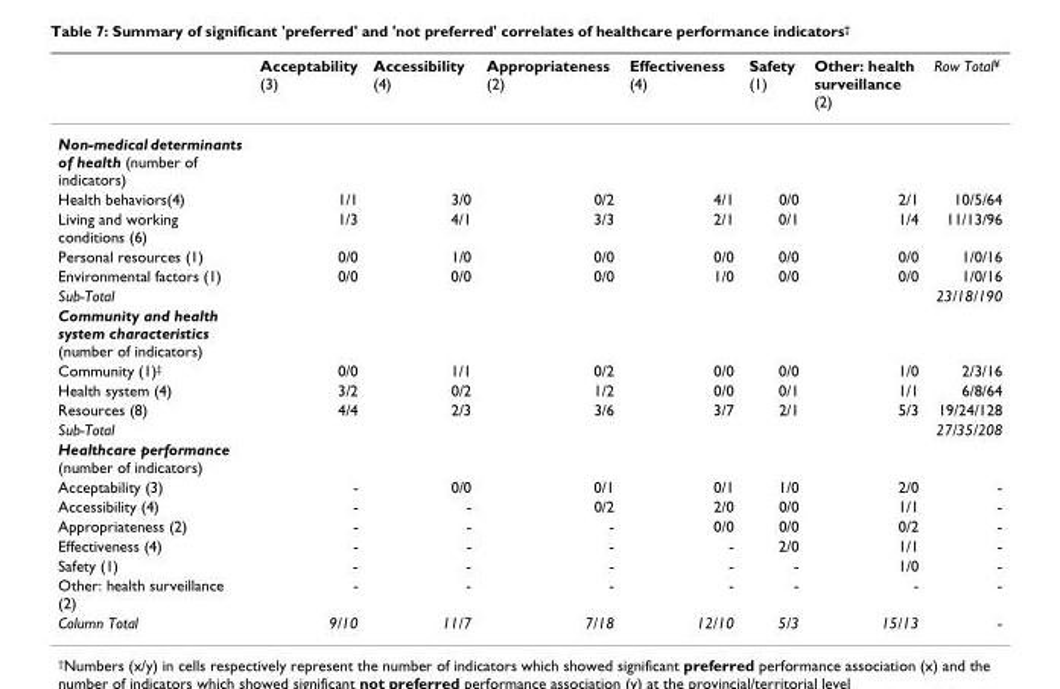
<table><thead><tr><td></td><td>Acceptability (3)</td><td>Accessibility (4)</td><td>Appropriateness (2)</td><td>Effectiveness (4)</td><td>Safety (1)</td><td>Other: health surveillance (2)</td><td>Row Total<sup>¥</sup></td></tr></thead><tbody><tr><td colspan="8">Non-medical determinants of health (number of indicators)</td></tr><tr><td>Health behaviors(4)</td><td>1/1</td><td>3/0</td><td>0/2</td><td>4/1</td><td>0/0</td><td>2/1</td><td>10/5/64</td></tr><tr><td>Living and working conditions (6)</td><td>1/3</td><td>4/1</td><td>3/3</td><td>2/1</td><td>0/1</td><td>1/4</td><td>11/13/96</td></tr><tr><td>Personal resources (1)</td><td>0/0</td><td>1/0</td><td>0/0</td><td>0/0</td><td>0/0</td><td>0/0</td><td>1/0/16</td></tr><tr><td>Environmental factors (1)</td><td>0/0</td><td>0/0</td><td>0/0</td><td>1/0</td><td>0/0</td><td>0/0</td><td>1/0/16</td></tr><tr><td>Sub-Total</td><td></td><td></td><td></td><td></td><td></td><td></td><td>23/18/190</td></tr><tr><td colspan="8">Community and health system characteristics (number of indicators)</td></tr><tr><td>Community (1)<sup>‡</sup></td><td>0/0</td><td>1/1</td><td>0/2</td><td>0/0</td><td>0/0</td><td>1/0</td><td>2/3/16</td></tr><tr><td>Health system (4)</td><td>3/2</td><td>0/2</td><td>1/2</td><td>0/0</td><td>0/1</td><td>1/1</td><td>6/8/64</td></tr><tr><td>Resources (8)</td><td>4/4</td><td>2/3</td><td>3/6</td><td>3/7</td><td>2/1</td><td>5/3</td><td>19/24/128</td></tr><tr><td>Sub-Total</td><td></td><td></td><td></td><td></td><td></td><td></td><td>27/35/208</td></tr><tr><td colspan="8">Healthcare performance (number of indicators)</td></tr><tr><td>Acceptability (3)</td><td>-</td><td>0/0</td><td>0/1</td><td>0/1</td><td>1/0</td><td>2/0</td><td>-</td></tr><tr><td>Accessibility (4)</td><td>-</td><td>-</td><td>0/2</td><td>2/0</td><td>0/0</td><td>1/1</td><td>-</td></tr><tr><td>Appropriateness (2)</td><td>-</td><td>-</td><td>-</td><td>0/0</td><td>0/0</td><td>0/2</td><td>-</td></tr><tr><td>Effectiveness (4)</td><td>-</td><td>-</td><td>-</td><td>-</td><td>2/0</td><td>1/1</td><td>-</td></tr><tr><td>Safety (1)</td><td>-</td><td>-</td><td>-</td><td>-</td><td>-</td><td>1/0</td><td>-</td></tr><tr><td>Other: health surveillance (2)</td><td>-</td><td>-</td><td>-</td><td>-</td><td>-</td><td>-</td><td>-</td></tr><tr><td>Column Total</td><td>9/10</td><td>11/7</td><td>7/18</td><td>12/10</td><td>5/3</td><td>15/13</td><td>-</td></tr></tbody></table>